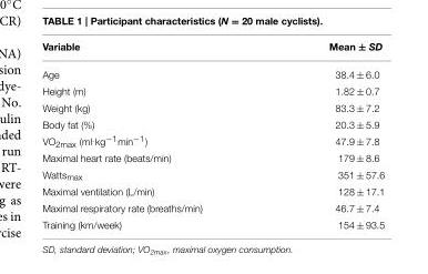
<table><thead><tr><td>Variable</td><td>Mean ± SD</td></tr></thead><tbody><tr><td>Age</td><td>38.4 ± 6.0</td></tr><tr><td>Height (m)</td><td>1.82 ± 0.7</td></tr><tr><td>Weight (kg)</td><td>83.3 ± 7.2</td></tr><tr><td>Body fat (%)</td><td>20.3 ± 5.9</td></tr><tr><td>VO<sub>2max</sub> (ml.kg<sup>−1</sup>min<sup>−1</sup>)</td><td>47.9 ± 7.8</td></tr><tr><td>Maximal heart rate (beats/min)</td><td>179 ± 8.6</td></tr><tr><td>Watts<sub>max</sub></td><td>351 ± 57.6</td></tr><tr><td>Maximal ventilation (L/min)</td><td>128 ± 17.1</td></tr><tr><td>Maximal respiratory rate (breaths/min)</td><td>46.7 ± 7.4</td></tr><tr><td>Training (km/week)</td><td>154 ± 93.5</td></tr></tbody></table>